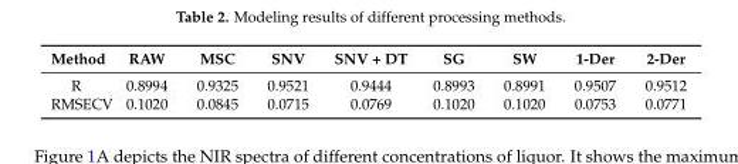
<table><thead><tr><td>Method</td><td>RAW</td><td>MSC</td><td>SNV</td><td>SNV + DT</td><td>SG</td><td>SW</td><td>1-Der</td><td>2-Der</td></tr></thead><tbody><tr><td>R</td><td>0.8994</td><td>0.9325</td><td>0.9521</td><td>0.9444</td><td>0.8993</td><td>0.8991</td><td>0.9507</td><td>0.9512</td></tr><tr><td>RMSECV</td><td>0.1020</td><td>0.0845</td><td>0.0715</td><td>0.0769</td><td>0.1020</td><td>0.1020</td><td>0.0753</td><td>0.0771</td></tr></tbody></table>